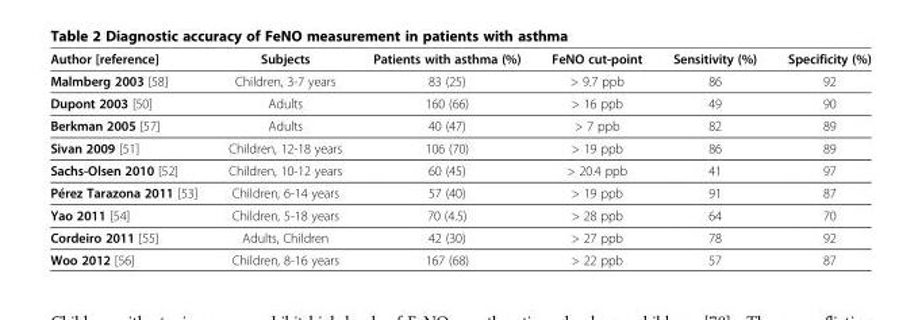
<table><thead><tr><td>Author [reference]</td><td>Subjects</td><td>Patients with asthma (%)</td><td>FeNO cut-point</td><td>Sensitivity (%)</td><td>Specificity (%)</td></tr></thead><tbody><tr><td>Malmberg 2003 [58]</td><td>Children, 3-7 years</td><td>83 (25)</td><td>&gt; 9.7 ppb</td><td>86</td><td>92</td></tr><tr><td>Dupont 2003 [50]</td><td>Adults</td><td>160 (66)</td><td>&gt; 16 ppb</td><td>49</td><td>90</td></tr><tr><td>Berkman 2005 [57]</td><td>Adults</td><td>40 (47)</td><td>&gt; 7 ppb</td><td>82</td><td>89</td></tr><tr><td>Sivan 2009 [51]</td><td>Children, 12-18 years</td><td>106 (70)</td><td>&gt; 19 ppb</td><td>86</td><td>89</td></tr><tr><td>Sachs-Olsen 2010 [52]</td><td>Children, 10-12 years</td><td>60 (45)</td><td>&gt; 20.4 ppb</td><td>41</td><td>97</td></tr><tr><td>Pérez Tarazona 2011 [53]</td><td>Children, 6-14 years</td><td>57 (40)</td><td>&gt; 19 ppb</td><td>91</td><td>87</td></tr><tr><td>Yao 2011 [54]</td><td>Children, 5-18 years</td><td>70 (4.5)</td><td>&gt; 28 ppb</td><td>64</td><td>70</td></tr><tr><td>Cordeiro 2011 [55]</td><td>Adults, Children</td><td>42 (30)</td><td>&gt; 27 ppb</td><td>78</td><td>92</td></tr><tr><td>Woo 2012 [56]</td><td>Children, 8-16 years</td><td>167 (68)</td><td>&gt; 22 ppb</td><td>57</td><td>87</td></tr></tbody></table>